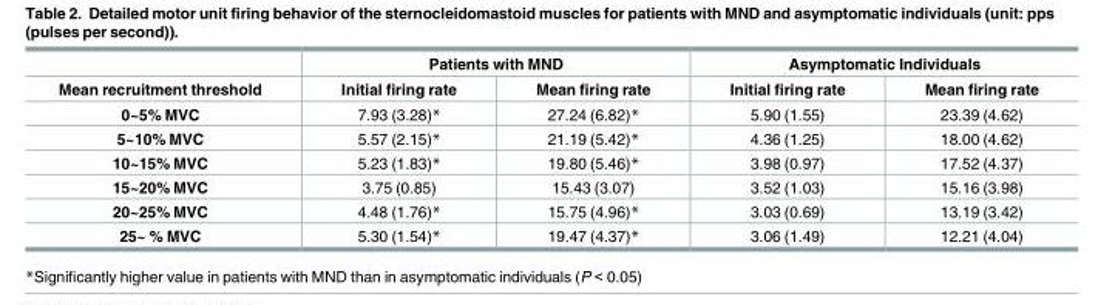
<table><thead><tr><td rowspan="2">Mean recruitment threshold</td><td colspan="2">Patients with MND</td><td colspan="2">Asymptomatic Individuals</td></tr><tr><td>Initial firing rate</td><td>Mean firing rate</td><td>Initial firing rate</td><td>Mean firing rate</td></tr></thead><tbody><tr><td>0~5% MVC</td><td>7.93 (3.28)*</td><td>27.24 (6.82)*</td><td>5.90 (1.55)</td><td>23.39 (4.62)</td></tr><tr><td>5~10% MVC</td><td>5.57 (2.15)*</td><td>21.19 (5.42)*</td><td>4.36 (1.25)</td><td>18.00 (4.62)</td></tr><tr><td>10~15% MVC</td><td>5.23 (1.83)*</td><td>19.80 (5.46)*</td><td>3.98 (0.97)</td><td>17.52 (4.37)</td></tr><tr><td>15~20% MVC</td><td>3.75 (0.85)</td><td>15.43 (3.07)</td><td>3.52 (1.03)</td><td>15.16 (3.98)</td></tr><tr><td>20~25% MVC</td><td>4.48 (1.76)*</td><td>15.75 (4.96)*</td><td>3.03 (0.69)</td><td>13.19 (3.42)</td></tr><tr><td>25~ % MVC</td><td>5.30 (1.54)*</td><td>19.47 (4.37)*</td><td>3.06 (1.49)</td><td>12.21 (4.04)</td></tr></tbody></table>